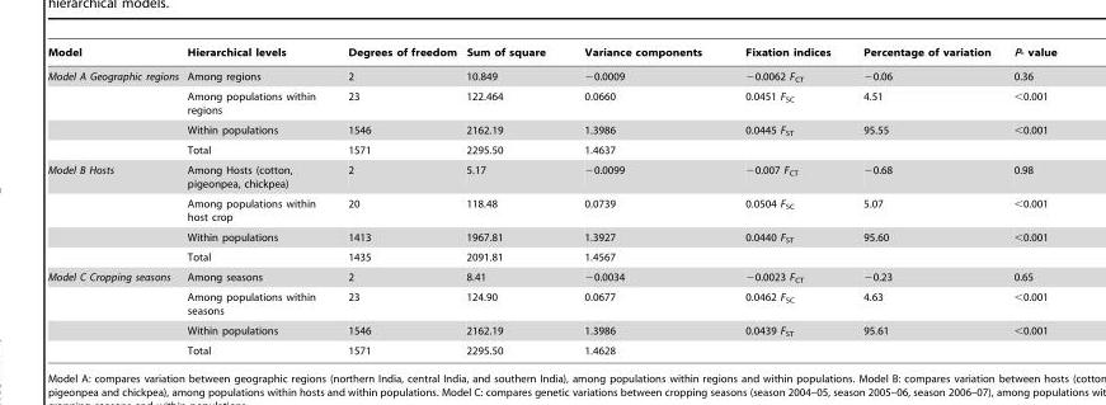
<table><thead><tr><td>Model</td><td>Hierarchical levels</td><td>Degrees of freedom</td><td>Sum of square</td><td>Variance components</td><td>Fixation indices</td><td>Percentage of variation</td><td>P- value</td></tr></thead><tbody><tr><td rowspan="4">Model A Geographic regions</td><td>Among regions</td><td>2</td><td>10.849</td><td>−0.0009</td><td>−0.0062 F<sub>CT</sub></td><td>−0.06</td><td>0.36</td></tr><tr><td>Among populations within regions</td><td>23</td><td>122.464</td><td>0.0660</td><td>0.0451 F<sub>SC</sub></td><td>4.51</td><td>&lt;0.001</td></tr><tr><td>Within populations</td><td>1546</td><td>2162.19</td><td>1.3986</td><td>0.0445 F<sub>ST</sub></td><td>95.55</td><td>&lt;0.001</td></tr><tr><td>Total</td><td>1571</td><td>2295.50</td><td>1.4637</td><td></td><td></td><td></td></tr><tr><td rowspan="4">Model B Hosts</td><td>Among Hosts (cotton, pigeonpea, chickpea)</td><td>2</td><td>5.17</td><td>−0.0099</td><td>−0.007 F<sub>CT</sub></td><td>−0.68</td><td>0.98</td></tr><tr><td>Among populations within host crop</td><td>20</td><td>118.48</td><td>0.0739</td><td>0.0504 F<sub>SC</sub></td><td>5.07</td><td>&lt;0.001</td></tr><tr><td>Within populations</td><td>1413</td><td>1967.81</td><td>1.3927</td><td>0.0440 F<sub>ST</sub></td><td>95.60</td><td>&lt;0.001</td></tr><tr><td>Total</td><td>1435</td><td>2091.81</td><td>1.4567</td><td></td><td></td><td></td></tr><tr><td rowspan="4">Model C Cropping seasons</td><td>Among seasons</td><td>2</td><td>8.41</td><td>−0.0034</td><td>−0.0023 F<sub>CT</sub></td><td>−0.23</td><td>0.65</td></tr><tr><td>Among populations within seasons</td><td>23</td><td>124.90</td><td>0.0677</td><td>0.0462 F<sub>SC</sub></td><td>4.63</td><td>&lt;0.001</td></tr><tr><td>Within populations</td><td>1546</td><td>2162.19</td><td>1.3986</td><td>0.0439 F<sub>ST</sub></td><td>95.61</td><td>&lt;0.001</td></tr><tr><td>Total</td><td>1571</td><td>2295.50</td><td>1.4628</td><td></td><td></td><td></td></tr></tbody></table>